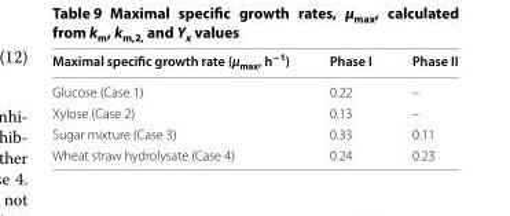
<table><thead><tr><td>Maximal specific growth rate (µ<sub>max</sub>, h<sup>−1</sup>)</td><td>Phase I</td><td>Phase II</td></tr></thead><tbody><tr><td>Glucose (Case 1)</td><td>0.22</td><td>–</td></tr><tr><td>Xylose (Case 2)</td><td>0.13</td><td>–</td></tr><tr><td>Sugar mixture (Case 3)</td><td>0.33</td><td>0.11</td></tr><tr><td>Wheat straw hydrolysate (Case 4)</td><td>0.24</td><td>0.23</td></tr></tbody></table>